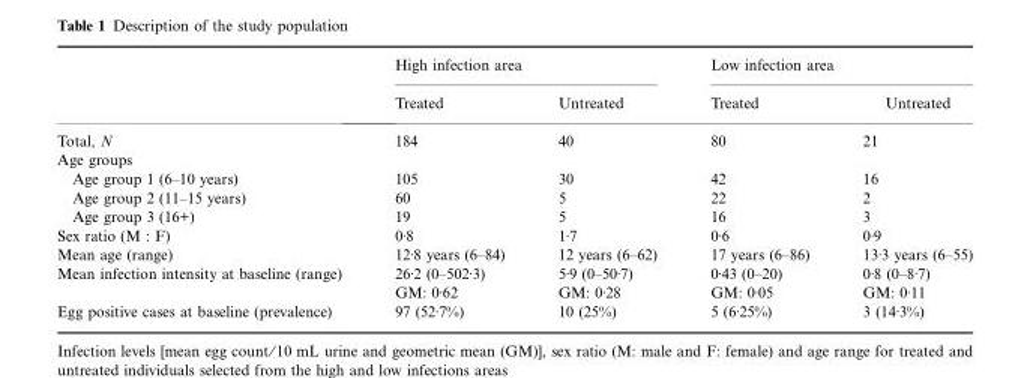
<table><thead><tr><td rowspan="2"></td><td colspan="2">High infection area</td><td colspan="2">Low infection area</td></tr><tr><td>Treated</td><td>Untreated</td><td>Treated</td><td>Untreated</td></tr></thead><tbody><tr><td>Total, N</td><td>184</td><td>40</td><td>80</td><td>21</td></tr><tr><td colspan="5">Age groups</td></tr><tr><td>Age group 1 (6–10 years)</td><td>105</td><td>30</td><td>42</td><td>16</td></tr><tr><td>Age group 2 (11–15 years)</td><td>60</td><td>5</td><td>22</td><td>2</td></tr><tr><td>Age group 3 (16+)</td><td>19</td><td>5</td><td>16</td><td>3</td></tr><tr><td>Sex ratio (M : F)</td><td>0Æ8</td><td>1Æ7</td><td>0Æ6</td><td>0Æ9</td></tr><tr><td>Mean age (range)</td><td>12Æ8 years (6–84)</td><td>12 years (6–62)</td><td>17 years (6–86)</td><td>13Æ3 years (6–55)</td></tr><tr><td>Mean infection intensity at baseline (range)</td><td>26Æ2 (0–502Æ3) GM: 0Æ62</td><td>5Æ9 (0–50Æ7) GM: 0Æ28</td><td>0Æ43 (0–20) GM: 0Æ05</td><td>0Æ8 (0–8Æ7) GM: 0Æ11</td></tr><tr><td>Egg positive cases at baseline (prevalence)</td><td>97 (52Æ7%)</td><td>10 (25%)</td><td>5 (6Æ25%)</td><td>3 (14Æ3%)</td></tr></tbody></table>